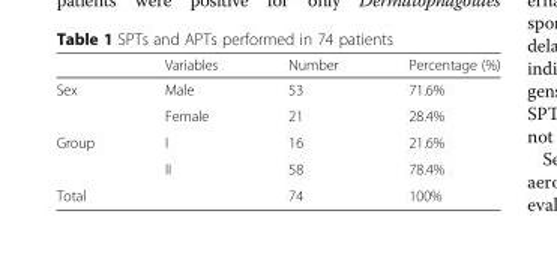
<table><thead><tr><td></td><td>Variables</td><td>Number</td><td>Percentage (%)</td></tr></thead><tbody><tr><td rowspan="2">Sex</td><td>Male</td><td>53</td><td>71.6%</td></tr><tr><td>Female</td><td>21</td><td>28.4%</td></tr><tr><td rowspan="2">Group</td><td>I</td><td>16</td><td>21.6%</td></tr><tr><td>II</td><td>58</td><td>78.4%</td></tr><tr><td>Total</td><td></td><td>74</td><td>100%</td></tr></tbody></table>